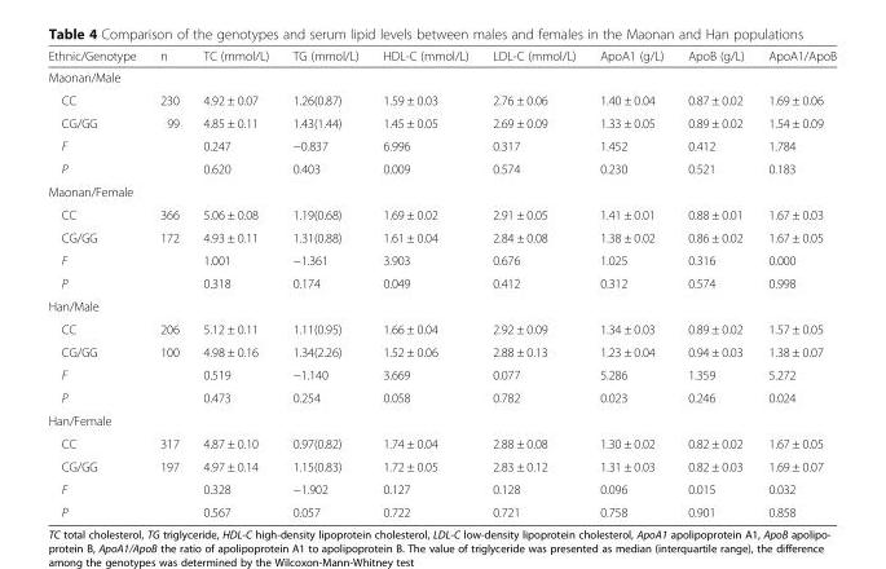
<table><thead><tr><td>Ethnic/Genotype</td><td>n</td><td>TC (mmol/L)</td><td>TG (mmol/L)</td><td>HDL-C (mmol/L)</td><td>LDL-C (mmol/L)</td><td>ApoA1 (g/L)</td><td>ApoB (g/L)</td><td>ApoA1/ApoB</td></tr></thead><tbody><tr><td colspan="9">Maonan/Male</td></tr><tr><td>CC</td><td>230</td><td>4.92 ± 0.07</td><td>1.26(0.87)</td><td>1.59 ± 0.03</td><td>2.76 ± 0.06</td><td>1.40 ± 0.04</td><td>0.87 ± 0.02</td><td>1.69 ± 0.06</td></tr><tr><td>CG/GG</td><td>99</td><td>4.85 ± 0.11</td><td>1.43(1.44)</td><td>1.45 ± 0.05</td><td>2.69 ± 0.09</td><td>1.33 ± 0.05</td><td>0.89 ± 0.02</td><td>1.54 ± 0.09</td></tr><tr><td>F</td><td></td><td>0.247</td><td>−0.837</td><td>6.996</td><td>0.317</td><td>1.452</td><td>0.412</td><td>1.784</td></tr><tr><td>P</td><td></td><td>0.620</td><td>0.403</td><td>0.009</td><td>0.574</td><td>0.230</td><td>0.521</td><td>0.183</td></tr><tr><td colspan="9">Maonan/Female</td></tr><tr><td>CC</td><td>366</td><td>5.06 ± 0.08</td><td>1.19(0.68)</td><td>1.69 ± 0.02</td><td>2.91 ± 0.05</td><td>1.41 ± 0.01</td><td>0.88 ± 0.01</td><td>1.67 ± 0.03</td></tr><tr><td>CG/GG</td><td>172</td><td>4.93 ± 0.11</td><td>1.31(0.88)</td><td>1.61 ± 0.04</td><td>2.84 ± 0.08</td><td>1.38 ± 0.02</td><td>0.86 ± 0.02</td><td>1.67 ± 0.05</td></tr><tr><td>F</td><td></td><td>1.001</td><td>−1.361</td><td>3.903</td><td>0.676</td><td>1.025</td><td>0.316</td><td>0.000</td></tr><tr><td>P</td><td></td><td>0.318</td><td>0.174</td><td>0.049</td><td>0.412</td><td>0.312</td><td>0.574</td><td>0.998</td></tr><tr><td colspan="9">Han/Male</td></tr><tr><td>CC</td><td>206</td><td>5.12 ± 0.11</td><td>1.11(0.95)</td><td>1.66 ± 0.04</td><td>2.92 ± 0.09</td><td>1.34 ± 0.03</td><td>0.89 ± 0.02</td><td>1.57 ± 0.05</td></tr><tr><td>CG/GG</td><td>100</td><td>4.98 ± 0.16</td><td>1.34(2.26)</td><td>1.52 ± 0.06</td><td>2.88 ± 0.13</td><td>1.23 ± 0.04</td><td>0.94 ± 0.03</td><td>1.38 ± 0.07</td></tr><tr><td>F</td><td></td><td>0.519</td><td>−1.140</td><td>3.669</td><td>0.077</td><td>5.286</td><td>1.359</td><td>5.272</td></tr><tr><td>P</td><td></td><td>0.473</td><td>0.254</td><td>0.058</td><td>0.782</td><td>0.023</td><td>0.246</td><td>0.024</td></tr><tr><td colspan="9">Han/Female</td></tr><tr><td>CC</td><td>317</td><td>4.87 ± 0.10</td><td>0.97(0.82)</td><td>1.74 ± 0.04</td><td>2.88 ± 0.08</td><td>1.30 ± 0.02</td><td>0.82 ± 0.02</td><td>1.67 ± 0.05</td></tr><tr><td>CG/GG</td><td>197</td><td>4.97 ± 0.14</td><td>1.15(0.83)</td><td>1.72 ± 0.05</td><td>2.83 ± 0.12</td><td>1.31 ± 0.03</td><td>0.82 ± 0.03</td><td>1.69 ± 0.07</td></tr><tr><td>F</td><td></td><td>0.328</td><td>−1.902</td><td>0.127</td><td>0.128</td><td>0.096</td><td>0.015</td><td>0.032</td></tr><tr><td>P</td><td></td><td>0.567</td><td>0.057</td><td>0.722</td><td>0.721</td><td>0.758</td><td>0.901</td><td>0.858</td></tr></tbody></table>